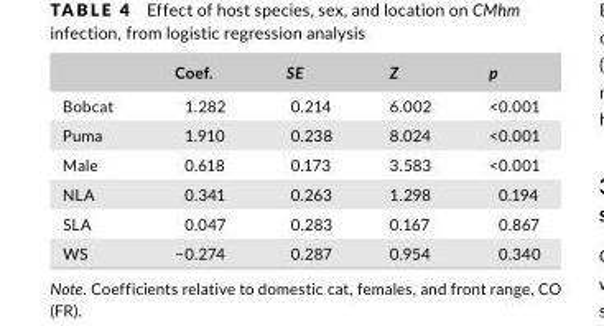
<table><thead><tr><td></td><td>Coef.</td><td>SE</td><td>Z</td><td>p</td></tr></thead><tbody><tr><td>Bobcat</td><td>1.282</td><td>0.214</td><td>6.002</td><td>&lt;0.001</td></tr><tr><td>Puma</td><td>1.910</td><td>0.238</td><td>8.024</td><td>&lt;0.001</td></tr><tr><td>Male</td><td>0.618</td><td>0.173</td><td>3.583</td><td>&lt;0.001</td></tr><tr><td>NLA</td><td>0.341</td><td>0.263</td><td>1.298</td><td>0.194</td></tr><tr><td>SLA</td><td>0.047</td><td>0.283</td><td>0.167</td><td>0.867</td></tr><tr><td>WS</td><td>−0.274</td><td>0.287</td><td>0.954</td><td>0.340</td></tr></tbody></table>